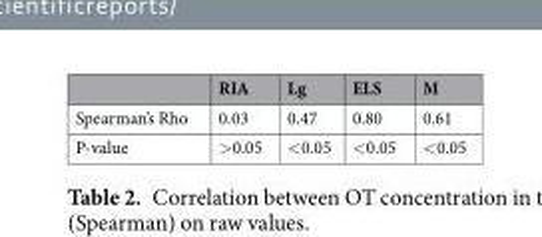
<table><thead><tr><td></td><td>RIA</td><td>Lg</td><td>ELS</td><td>M</td></tr></thead><tbody><tr><td>Spearman’s Rho</td><td>0.03</td><td>0.47</td><td>0.80</td><td>0.61</td></tr><tr><td>P-value</td><td>&gt;0.05</td><td>&lt;0.05</td><td>&lt;0.05</td><td>&lt;0.05</td></tr></tbody></table>